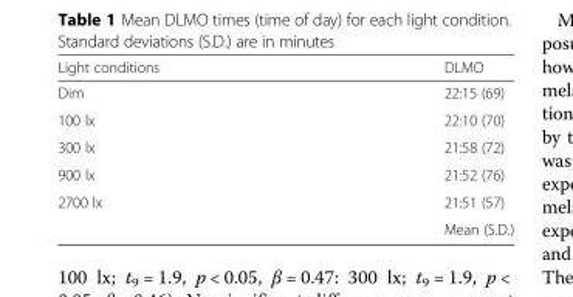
<table><thead><tr><td>Light conditions</td><td>DLMO</td></tr></thead><tbody><tr><td>Dim</td><td>22:15 (69)</td></tr><tr><td>100 lx</td><td>22:10 (70)</td></tr><tr><td>300 lx</td><td>21:58 (72)</td></tr><tr><td>900 lx</td><td>21:52 (76)</td></tr><tr><td rowspan="2">2700 lx</td><td>21:51 (57)</td></tr><tr><td>Mean (S.D.)</td></tr></tbody></table>